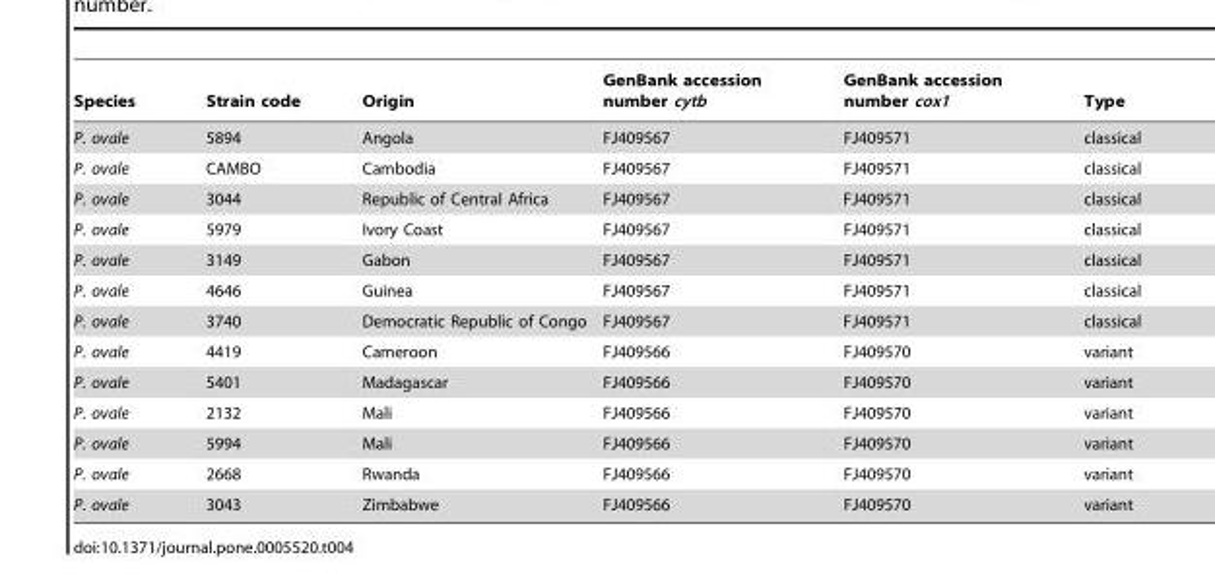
<table><thead><tr><td>Species</td><td>Strain code</td><td>Origin</td><td>GenBank accession number cytb</td><td>GenBank accession number cox1</td><td>Type</td></tr></thead><tbody><tr><td>P. ovale</td><td>5894</td><td>Angola</td><td>FJ409567</td><td>FJ409571</td><td>classical</td></tr><tr><td>P. ovale</td><td>CAMBO</td><td>Cambodia</td><td>FJ409567</td><td>FJ409571</td><td>classical</td></tr><tr><td>P. ovale</td><td>3044</td><td>Republic of Central Africa</td><td>FJ409567</td><td>FJ409571</td><td>classical</td></tr><tr><td>P. ovale</td><td>5979</td><td>Ivory Coast</td><td>FJ409567</td><td>FJ409571</td><td>classical</td></tr><tr><td>P. ovale</td><td>3149</td><td>Gabon</td><td>FJ409567</td><td>FJ409571</td><td>classical</td></tr><tr><td>P. ovale</td><td>4646</td><td>Guinea</td><td>FJ409567</td><td>FJ409571</td><td>classical</td></tr><tr><td>P. ovale</td><td>3740</td><td>Democratic Republic of Congo</td><td>FJ409567</td><td>FJ409571</td><td>classical</td></tr><tr><td>P. ovale</td><td>4419</td><td>Cameroon</td><td>FJ409566</td><td>FJ409570</td><td>variant</td></tr><tr><td>P. ovale</td><td>5401</td><td>Madagascar</td><td>FJ409566</td><td>FJ409570</td><td>variant</td></tr><tr><td>P. ovale</td><td>2132</td><td>Mali</td><td>FJ409566</td><td>FJ409570</td><td>variant</td></tr><tr><td>P. ovale</td><td>5994</td><td>Mali</td><td>FJ409566</td><td>FJ409570</td><td>variant</td></tr><tr><td>P. ovale</td><td>2668</td><td>Rwanda</td><td>FJ409566</td><td>FJ409570</td><td>variant</td></tr><tr><td>P. ovale</td><td>3043</td><td>Zimbabwe</td><td>FJ409566</td><td>FJ409570</td><td>variant</td></tr></tbody></table>